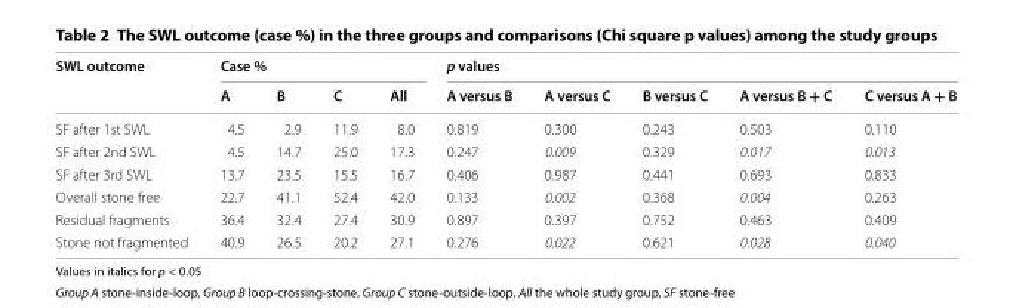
<table><thead><tr><td rowspan="2">SWL outcome</td><td colspan="4">Case %</td><td colspan="5">p values</td></tr><tr><td>A</td><td>B</td><td>C</td><td>All</td><td>A versus B</td><td>A versus C</td><td>B versus C</td><td>A versus B + C</td><td>C versus A + B</td></tr></thead><tbody><tr><td>SF after 1st SWL</td><td>4.5</td><td>2.9</td><td>11.9</td><td>8.0</td><td>0.819</td><td>0.300</td><td>0.243</td><td>0.503</td><td>0.110</td></tr><tr><td>SF after 2nd SWL</td><td>4.5</td><td>14.7</td><td>25.0</td><td>17.3</td><td>0.247</td><td>0.009</td><td>0.329</td><td>0.017</td><td>0.013</td></tr><tr><td>SF after 3rd SWL</td><td>13.7</td><td>23.5</td><td>15.5</td><td>16.7</td><td>0.406</td><td>0.987</td><td>0.441</td><td>0.693</td><td>0.833</td></tr><tr><td>Overall stone free</td><td>22.7</td><td>41.1</td><td>52.4</td><td>42.0</td><td>0.133</td><td>0.002</td><td>0.368</td><td>0.004</td><td>0.263</td></tr><tr><td>Residual fragments</td><td>36.4</td><td>32.4</td><td>27.4</td><td>30.9</td><td>0.897</td><td>0.397</td><td>0.752</td><td>0.463</td><td>0.409</td></tr><tr><td>Stone not fragmented</td><td>40.9</td><td>26.5</td><td>20.2</td><td>27.1</td><td>0.276</td><td>0.022</td><td>0.621</td><td>0.028</td><td>0.040</td></tr></tbody></table>